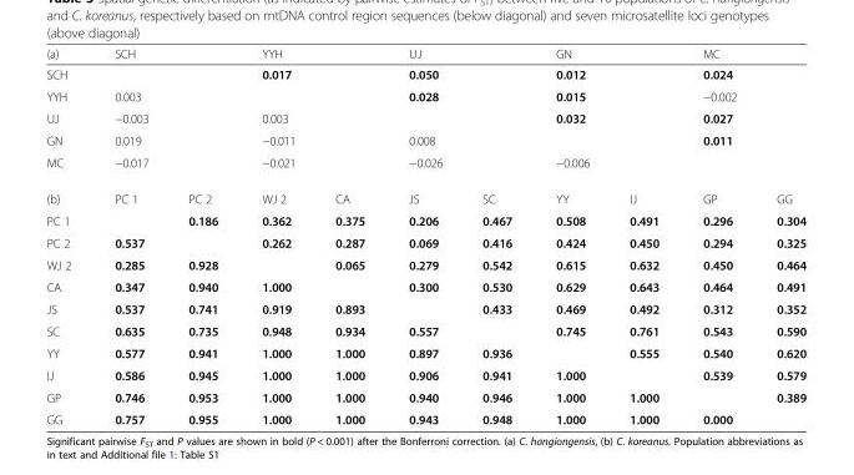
<table><thead><tr><td>(a)</td><td colspan="2">SCH</td><td colspan="2">YYH</td><td colspan="2">UJ</td><td colspan="2">GN</td><td colspan="2">MC</td></tr></thead><tbody><tr><td>SCH</td><td colspan="2"></td><td colspan="2">0.017</td><td colspan="2">0.050</td><td colspan="2">0.012</td><td colspan="2">0.024</td></tr><tr><td>YYH</td><td colspan="2">0.003</td><td colspan="2"></td><td colspan="2">0.028</td><td colspan="2">0.015</td><td colspan="2">−0.002</td></tr><tr><td>UJ</td><td colspan="2">−0.003</td><td colspan="2">0.003</td><td colspan="2"></td><td colspan="2">0.032</td><td colspan="2">0.027</td></tr><tr><td>GN</td><td colspan="2">0.019</td><td colspan="2">−0.011</td><td colspan="2">0.008</td><td colspan="2"></td><td colspan="2">0.011</td></tr><tr><td>MC</td><td colspan="2">−0.017</td><td colspan="2">−0.021</td><td colspan="2">−0.026</td><td colspan="2">−0.006</td><td colspan="2"></td></tr><tr><td>(b)</td><td>PC 1</td><td>PC 2</td><td>WJ 2</td><td>CA</td><td>JS</td><td>SC</td><td>YY</td><td>IJ</td><td>GP</td><td>GG</td></tr><tr><td>PC 1</td><td></td><td>0.186</td><td>0.362</td><td>0.375</td><td>0.206</td><td>0.467</td><td>0.508</td><td>0.491</td><td>0.296</td><td>0.304</td></tr><tr><td>PC 2</td><td>0.537</td><td></td><td>0.262</td><td>0.287</td><td>0.069</td><td>0.416</td><td>0.424</td><td>0.450</td><td>0.294</td><td>0.325</td></tr><tr><td>WJ 2</td><td>0.285</td><td>0.928</td><td></td><td>0.065</td><td>0.279</td><td>0.542</td><td>0.615</td><td>0.632</td><td>0.450</td><td>0.464</td></tr><tr><td>CA</td><td>0.347</td><td>0.940</td><td>1.000</td><td></td><td>0.300</td><td>0.530</td><td>0.629</td><td>0.643</td><td>0.464</td><td>0.491</td></tr><tr><td>JS</td><td>0.537</td><td>0.741</td><td>0.919</td><td>0.893</td><td></td><td>0.433</td><td>0.469</td><td>0.492</td><td>0.312</td><td>0.352</td></tr><tr><td>SC</td><td>0.635</td><td>0.735</td><td>0.948</td><td>0.934</td><td>0.557</td><td></td><td>0.745</td><td>0.761</td><td>0.543</td><td>0.590</td></tr><tr><td>YY</td><td>0.577</td><td>0.941</td><td>1.000</td><td>1.000</td><td>0.897</td><td>0.936</td><td></td><td>0.555</td><td>0.540</td><td>0.620</td></tr><tr><td>IJ</td><td>0.586</td><td>0.945</td><td>1.000</td><td>1.000</td><td>0.906</td><td>0.941</td><td>1.000</td><td></td><td>0.539</td><td>0.579</td></tr><tr><td>GP</td><td>0.746</td><td>0.953</td><td>1.000</td><td>1.000</td><td>0.940</td><td>0.946</td><td>1.000</td><td>1.000</td><td></td><td>0.389</td></tr><tr><td>GG</td><td>0.757</td><td>0.955</td><td>1.000</td><td>1.000</td><td>0.943</td><td>0.948</td><td>1.000</td><td>1.000</td><td>0.000</td><td></td></tr></tbody></table>